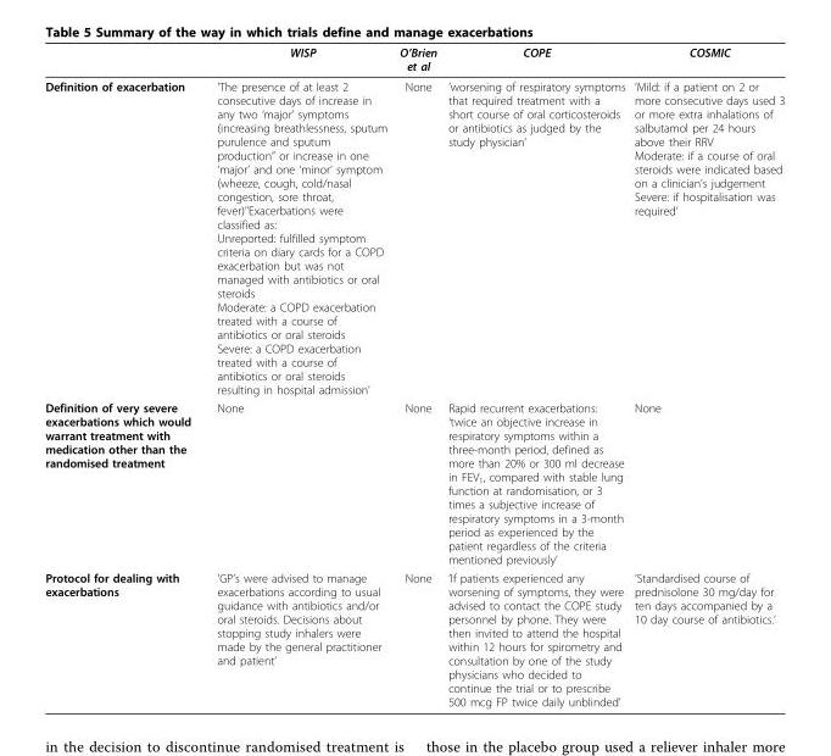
<table><thead><tr><td></td><td>WISP</td><td>O’Brien et al</td><td>COPE</td><td>COSMIC</td></tr></thead><tbody><tr><td>Definition of exacerbation</td><td>’The presence of at least 2 consecutive days of increase in any two ‘major’ symptoms (increasing breathlessness, sputum purulence and sputum production” or increase in one ‘major’ and one ‘minor’ symptom (wheeze, cough, cold/nasal congestion, sore throat, fever)’’Exacerbations were classified as: Unreported: fulfilled symptom criteria on diary cards for a COPD exacerbation but was not managed with antibiotics or oral steroids Moderate: a COPD exacerbation treated with a course of antibiotics or oral steroids Severe: a COPD exacerbation treated with a course of antibiotics or oral steroids resulting in hospital admission’</td><td>None</td><td>’worsening of respiratory symptoms that required treatment with a short course of oral corticosteroids or antibiotics as judged by the study physician’</td><td>’Mild: if a patient on 2 or more consecutive days used 3 or more extra inhalations of salbutamol per 24 hours above their RRV Moderate: if a course of oral steroids were indicated based on a clinician’s judgement Severe: if hospitalisation was required’</td></tr><tr><td>Definition of very severe exacerbations which would warrant treatment with medication other than the randomised treatment</td><td>None</td><td>None</td><td>Rapid recurrent exacerbations: ‘twice an objective increase in respiratory symptoms within a three-month period, defined as more than 20% or 300 ml decrease in FEV<sub>1</sub>, compared with stable lung function at randomisation, or 3 times a subjective increase of respiratory symptoms in a 3-month period as experienced by the patient regardless of the criteria mentioned previously’</td><td>None</td></tr><tr><td>Protocol for dealing with exacerbations</td><td>’GP’s were advised to manage exacerbations according to usual guidance with antibiotics and/or oral steroids. Decisions about stopping study inhalers were made by the general practitioner and patient’</td><td>None</td><td>’If patients experienced any worsening of symptoms, they were advised to contact the COPE study personnel by phone. They were then invited to attend the hospital within 12 hours for spirometry and consultation by one of the study physicians who decided to continue the trial or to prescribe 500 mcg FP twice daily unblinded’</td><td>’Standardised course of prednisolone 30 mg/day for ten days accompanied by a 10 day course of antibiotics.’</td></tr></tbody></table>